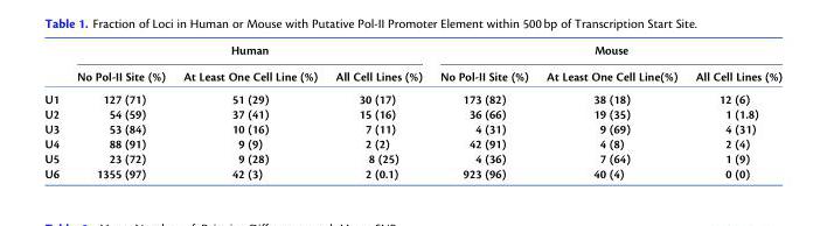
<table><thead><tr><td rowspan="2"></td><td colspan="3">Human</td><td colspan="3">Mouse</td></tr><tr><td>No Pol-II Site (%)</td><td>At Least One Cell Line (%)</td><td>All Cell Lines (%)</td><td>No Pol-II Site (%)</td><td>At Least One Cell Line(%)</td><td>All Cell Lines (%)</td></tr></thead><tbody><tr><td>U1</td><td>127 (71)</td><td>51 (29)</td><td>30 (17)</td><td>173 (82)</td><td>38 (18)</td><td>12 (6)</td></tr><tr><td>U2</td><td>54 (59)</td><td>37 (41)</td><td>15 (16)</td><td>36 (66)</td><td>19 (35)</td><td>1 (1.8)</td></tr><tr><td>U3</td><td>53 (84)</td><td>10 (16)</td><td>7 (11)</td><td>4 (31)</td><td>9 (69)</td><td>4 (31)</td></tr><tr><td>U4</td><td>88 (91)</td><td>9 (9)</td><td>2 (2)</td><td>42 (91)</td><td>4 (8)</td><td>2 (4)</td></tr><tr><td>U5</td><td>23 (72)</td><td>9 (28)</td><td>8 (25)</td><td>4 (36)</td><td>7 (64)</td><td>1 (9)</td></tr><tr><td>U6</td><td>1355 (97)</td><td>42 (3)</td><td>2 (0.1)</td><td>923 (96)</td><td>40 (4)</td><td>0 (0)</td></tr></tbody></table>